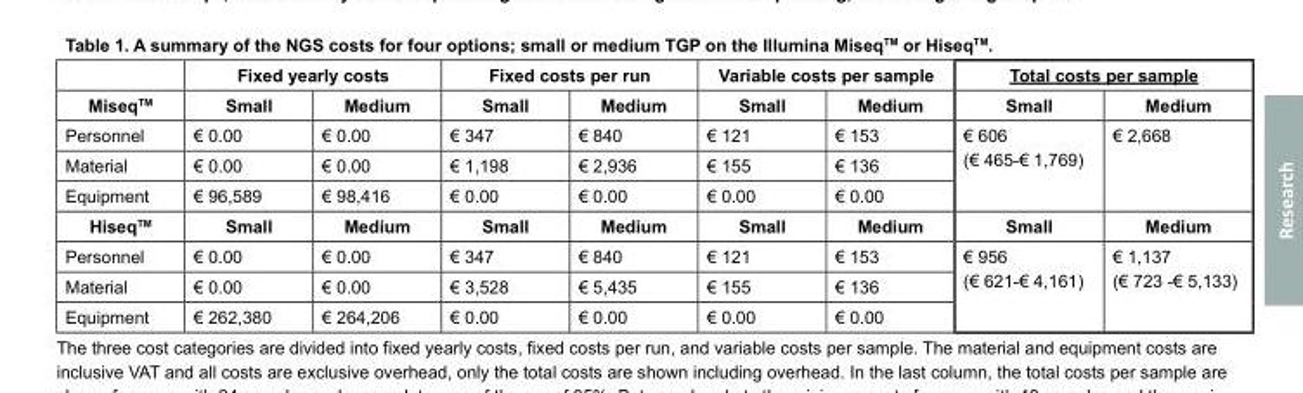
<table><thead><tr><td rowspan="2">Miseq<sup>TM</sup></td><td colspan="2">Fixed yearly costs</td><td colspan="2">Fixed costs per run</td><td colspan="2">Variable costs per sample</td><td colspan="2">Total costs per sample</td></tr><tr><td>Small</td><td>Medium</td><td>Small</td><td>Medium</td><td>Small</td><td>Medium</td><td>Small</td><td>Medium</td></tr></thead><tbody><tr><td>Personnel</td><td>€ 0.00</td><td>€ 0.00</td><td>€ 347</td><td>€ 840</td><td>€ 121</td><td>€ 153</td><td rowspan="3">€ 606 (€ 465-€ 1,769)</td><td rowspan="3">€ 2,668</td></tr><tr><td>Material</td><td>€ 0.00</td><td>€ 0.00</td><td>€ 1,198</td><td>€ 2,936</td><td>€ 155</td><td>€ 136</td></tr><tr><td>Equipment</td><td>€ 96,589</td><td>€ 98,416</td><td>€ 0.00</td><td>€ 0.00</td><td>€ 0.00</td><td>€ 0.00</td></tr><tr><td>Hiseq<sup>TM</sup></td><td>Small</td><td>Medium</td><td>Small</td><td>Medium</td><td>Small</td><td>Medium</td><td>Small</td><td>Medium</td></tr><tr><td>Personnel</td><td>€ 0.00</td><td>€ 0.00</td><td>€ 347</td><td>€ 840</td><td>€ 121</td><td>€ 153</td><td rowspan="3">€ 956 (€ 621-€ 4,161)</td><td rowspan="3">€ 1,137 (€ 723 -€ 5,133)</td></tr><tr><td>Material</td><td>€ 0.00</td><td>€ 0.00</td><td>€ 3,528</td><td>€ 5,435</td><td>€ 155</td><td>€ 136</td></tr><tr><td>Equipment</td><td>€ 262,380</td><td>€ 264,206</td><td>€ 0.00</td><td>€ 0.00</td><td>€ 0.00</td><td>€ 0.00</td></tr></tbody></table>